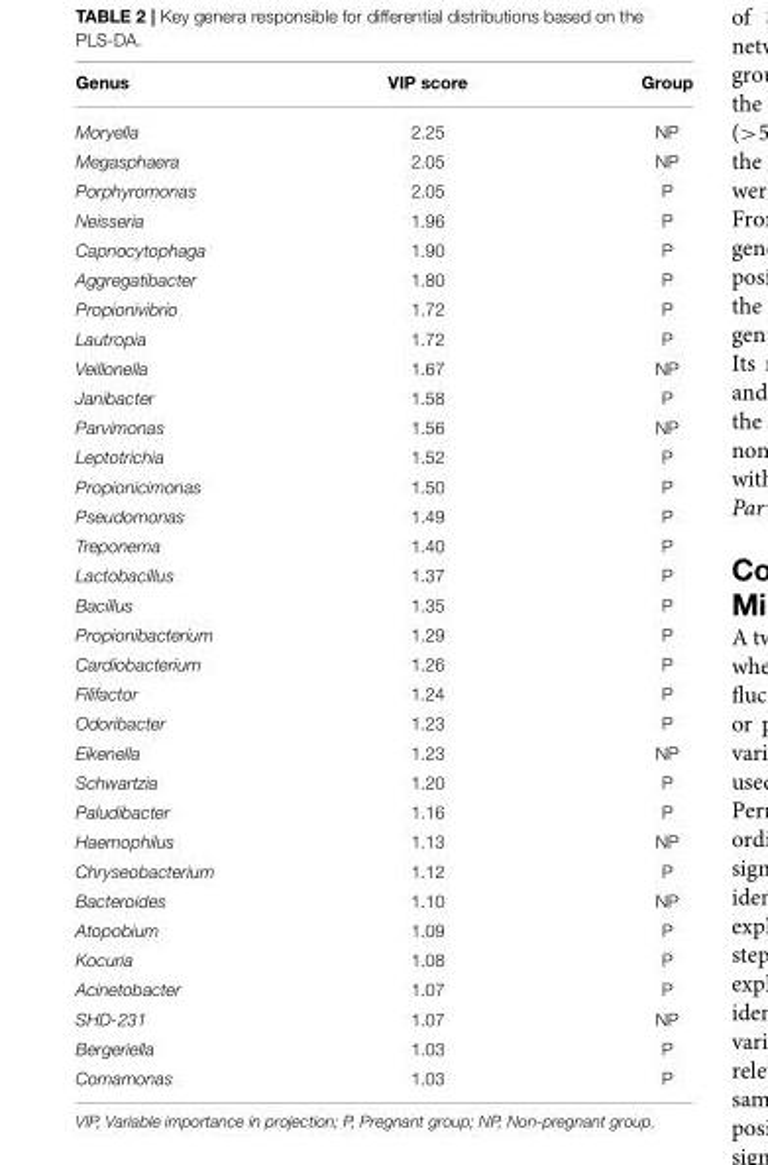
<table><thead><tr><td>Genus</td><td>VIP score</td><td>Group</td></tr></thead><tbody><tr><td>Moryella</td><td>2.25</td><td>NP</td></tr><tr><td>Megasphaera</td><td>2.05</td><td>NP</td></tr><tr><td>Porphyromonas</td><td>2.05</td><td>P</td></tr><tr><td>Neisseria</td><td>1.96</td><td>P</td></tr><tr><td>Capnocytophaga</td><td>1.90</td><td>P</td></tr><tr><td>Aggregatibacter</td><td>1.80</td><td>P</td></tr><tr><td>Propionivibrio</td><td>1.72</td><td>P</td></tr><tr><td>Lautropia</td><td>1.72</td><td>P</td></tr><tr><td>Veillonella</td><td>1.67</td><td>NP</td></tr><tr><td>Janibacter</td><td>1.58</td><td>P</td></tr><tr><td>Parvimonas</td><td>1.56</td><td>NP</td></tr><tr><td>Leptotrichia</td><td>1.52</td><td>P</td></tr><tr><td>Propionicimonas</td><td>1.50</td><td>P</td></tr><tr><td>Pseudomonas</td><td>1.49</td><td>P</td></tr><tr><td>Treponema</td><td>1.40</td><td>P</td></tr><tr><td>Lactobacillus</td><td>1.37</td><td>P</td></tr><tr><td>Bacillus</td><td>1.35</td><td>P</td></tr><tr><td>Propionibacterium</td><td>1.29</td><td>P</td></tr><tr><td>Cardiobacterium</td><td>1.26</td><td>P</td></tr><tr><td>Filifactor</td><td>1.24</td><td>P</td></tr><tr><td>Odoribacter</td><td>1.23</td><td>P</td></tr><tr><td>Eikenella</td><td>1.23</td><td>NP</td></tr><tr><td>Schwartzia</td><td>1.20</td><td>P</td></tr><tr><td>Paludibacter</td><td>1.16</td><td>P</td></tr><tr><td>Haemophilus</td><td>1.13</td><td>NP</td></tr><tr><td>Chryseobacterium</td><td>1.12</td><td>P</td></tr><tr><td>Bacteroides</td><td>1.10</td><td>NP</td></tr><tr><td>Atopobium</td><td>1.09</td><td>P</td></tr><tr><td>Kocuria</td><td>1.08</td><td>P</td></tr><tr><td>Acinetobacter</td><td>1.07</td><td>P</td></tr><tr><td>SHD-231</td><td>1.07</td><td>NP</td></tr><tr><td>Bergeriella</td><td>1.03</td><td>P</td></tr><tr><td>Comamonas</td><td>1.03</td><td>P</td></tr></tbody></table>